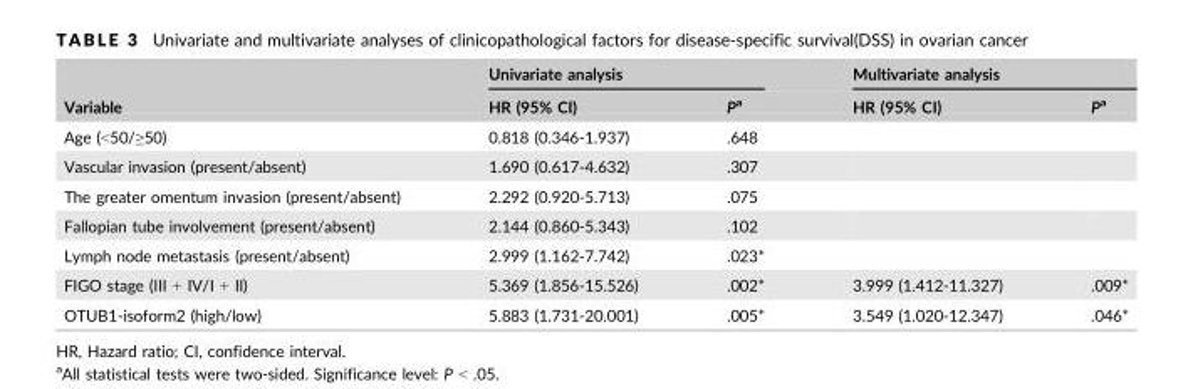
<table><thead><tr><td rowspan="2">Variable</td><td colspan="2">Univariate analysis</td><td colspan="2">Multivariate analysis</td></tr><tr><td>HR (95% CI)</td><td>Pa</td><td>HR (95% CI)</td><td>Pa</td></tr></thead><tbody><tr><td>Age (&lt;50/≥50)</td><td>0.818 (0.346-1.937)</td><td>.648</td><td></td><td></td></tr><tr><td>Vascular invasion (present/absent)</td><td>1.690 (0.617-4.632)</td><td>.307</td><td></td><td></td></tr><tr><td>The greater omentum invasion (present/absent)</td><td>2.292 (0.920-5.713)</td><td>.075</td><td></td><td></td></tr><tr><td>Fallopian tube involvement (present/absent)</td><td>2.144 (0.860-5.343)</td><td>.102</td><td></td><td></td></tr><tr><td>Lymph node metastasis (present/absent)</td><td>2.999 (1.162-7.742)</td><td>.023*</td><td></td><td></td></tr><tr><td>FIGO stage (III + IV/I + II)</td><td>5.369 (1.856-15.526)</td><td>.002*</td><td>3.999 (1.412-11.327)</td><td>.009*</td></tr><tr><td>OTUB1-isoform2 (high/low)</td><td>5.883 (1.731-20.001)</td><td>.005*</td><td>3.549 (1.020-12.347)</td><td>.046*</td></tr></tbody></table>